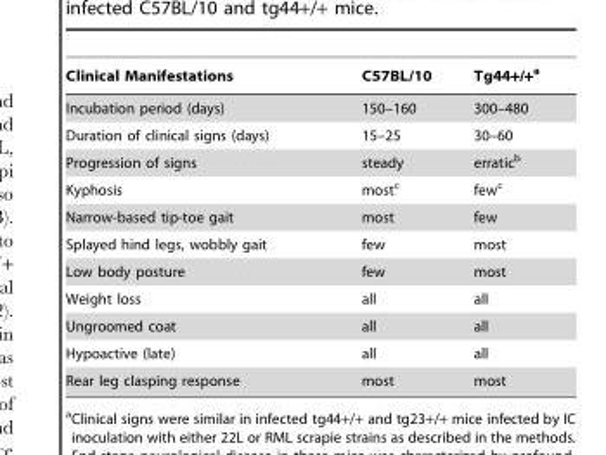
<table><thead><tr><td>Clinical Manifestations</td><td>C57BL/10</td><td>Tg44+/+<sup>a</sup></td></tr></thead><tbody><tr><td>Incubation period (days)</td><td>150–160</td><td>300–480</td></tr><tr><td>Duration of clinical signs (days)</td><td>15–25</td><td>30–60</td></tr><tr><td>Progression of signs</td><td>steady</td><td>erratic<sup>b</sup></td></tr><tr><td>Kyphosis</td><td>most<sup>c</sup></td><td>few<sup>c</sup></td></tr><tr><td>Narrow-based tip-toe gait</td><td>most</td><td>few</td></tr><tr><td>Splayed hind legs, wobbly gait</td><td>few</td><td>most</td></tr><tr><td>Low body posture</td><td>few</td><td>most</td></tr><tr><td>Weight loss</td><td>all</td><td>all</td></tr><tr><td>Ungroomed coat</td><td>all</td><td>all</td></tr><tr><td>Hypoactive (late)</td><td>all</td><td>all</td></tr><tr><td>Rear leg clasping response</td><td>most</td><td>most</td></tr></tbody></table>